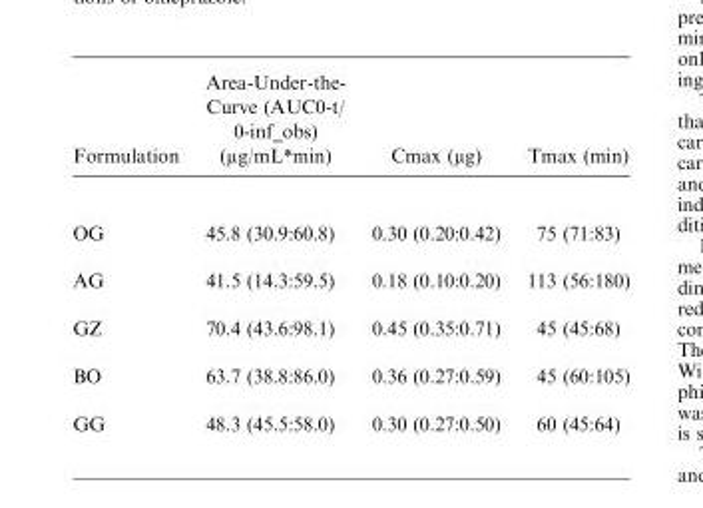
<table><thead><tr><td>Formulation</td><td>Area-Under-the- Curve (AUC0-t/ 0-inf_obs) (µg/mL*min)</td><td>Cmax (µg)</td><td>Tmax (min)</td></tr></thead><tbody><tr><td>OG</td><td>45.8 (30.9:60.8)</td><td>0.30 (0.20:0.42)</td><td>75 (71:83)</td></tr><tr><td>AG</td><td>41.5 (14.3:59.5)</td><td>0.18 (0.10:0.20)</td><td>113 (56:180)</td></tr><tr><td>GZ</td><td>70.4 (43.6:98.1)</td><td>0.45 (0.35:0.71)</td><td>45 (45:68)</td></tr><tr><td>BO</td><td>63.7 (38.8:86.0)</td><td>0.36 (0.27:0.59)</td><td>45 (60:105)</td></tr><tr><td>GG</td><td>48.3 (45.5:58.0)</td><td>0.30 (0.27:0.50)</td><td>60 (45:64)</td></tr></tbody></table>